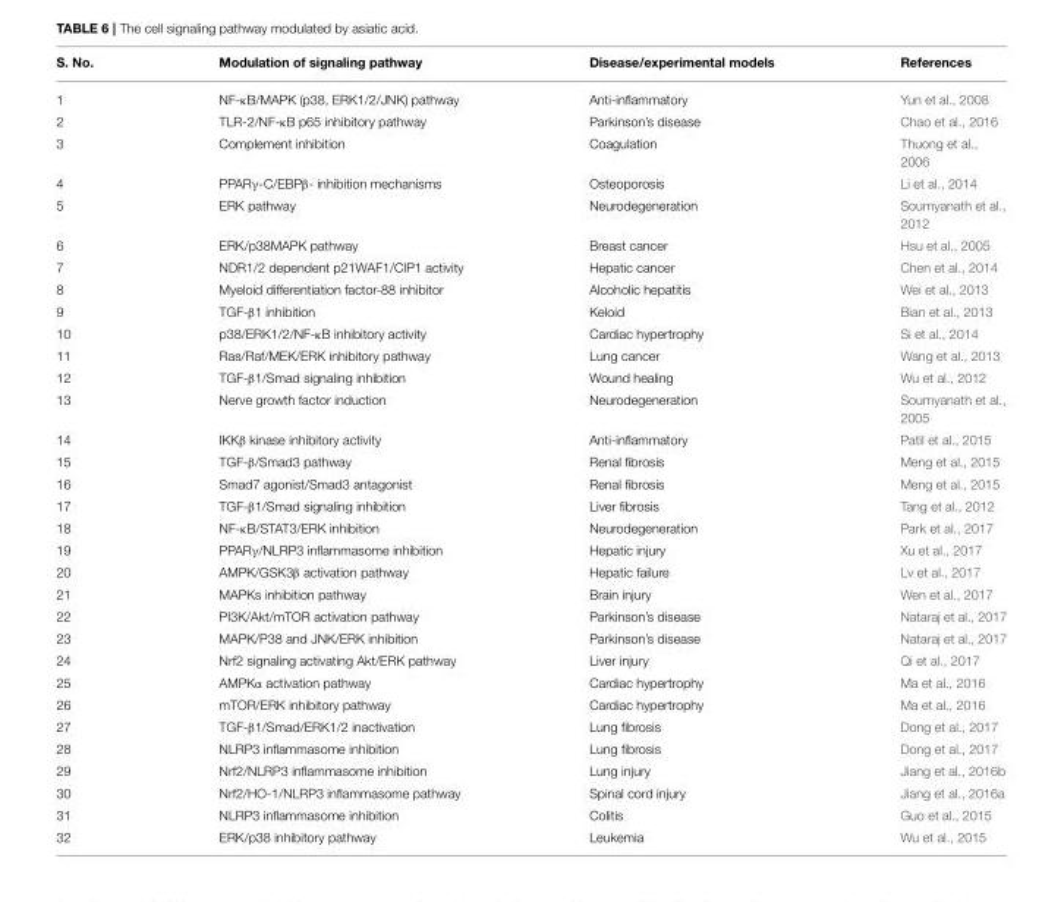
<table><thead><tr><td>S. No.</td><td>Modulation of signaling pathway</td><td>Disease/experimental models</td><td>References</td></tr></thead><tbody><tr><td>1</td><td>NF-κB/MAPK (p38, ERK1/2/JNK) pathway</td><td>Anti-inflammatory</td><td>Yun et al., 2008</td></tr><tr><td>2</td><td>TLR-2/NF-κB p65 inhibitory pathway</td><td>Parkinson’s disease</td><td>Chao et al., 2016</td></tr><tr><td>3</td><td>Complement inhibition</td><td>Coagulation</td><td>Thuong et al., 2006</td></tr><tr><td>4</td><td>PPARγ-C/EBPβ- inhibition mechanisms</td><td>Osteoporosis</td><td>Li et al., 2014</td></tr><tr><td>5</td><td>ERK pathway</td><td>Neurodegeneration</td><td>Soumyanath et al., 2012</td></tr><tr><td>6</td><td>ERK/p38MAPK pathway</td><td>Breast cancer</td><td>Hsu et al., 2005</td></tr><tr><td>7</td><td>NDR1/2 dependent p21WAF1/CIP1 activity</td><td>Hepatic cancer</td><td>Chen et al., 2014</td></tr><tr><td>8</td><td>Myeloid differentiation factor-88 inhibitor</td><td>Alcoholic hepatitis</td><td>Wei et al., 2013</td></tr><tr><td>9</td><td>TGF-β1 inhibition</td><td>Keloid</td><td>Bian et al., 2013</td></tr><tr><td>10</td><td>p38/ERK1/2/NF-κB inhibitory activity</td><td>Cardiac hypertrophy</td><td>Si et al., 2014</td></tr><tr><td>11</td><td>Ras/Raf/MEK/ERK inhibitory pathway</td><td>Lung cancer</td><td>Wang et al., 2013</td></tr><tr><td>12</td><td>TGF-β1/Smad signaling inhibition</td><td>Wound healing</td><td>Wu et al., 2012</td></tr><tr><td>13</td><td>Nerve growth factor induction</td><td>Neurodegeneration</td><td>Soumyanath et al., 2005</td></tr><tr><td>14</td><td>IKKβ kinase inhibitory activity</td><td>Anti-inflammatory</td><td>Patil et al., 2015</td></tr><tr><td>15</td><td>TGF-β/Smad3 pathway</td><td>Renal fibrosis</td><td>Meng et al., 2015</td></tr><tr><td>16</td><td>Smad7 agonist/Smad3 antagonist</td><td>Renal fibrosis</td><td>Meng et al., 2015</td></tr><tr><td>17</td><td>TGF-β1/Smad signaling inhibition</td><td>Liver fibrosis</td><td>Tang et al., 2012</td></tr><tr><td>18</td><td>NF-κB/STAT3/ERK inhibition</td><td>Neurodegeneration</td><td>Park et al., 2017</td></tr><tr><td>19</td><td>PPARγ/NLRP3 inflammasome inhibition</td><td>Hepatic injury</td><td>Xu et al., 2017</td></tr><tr><td>20</td><td>AMPK/GSK3β activation pathway</td><td>Hepatic failure</td><td>Lv et al., 2017</td></tr><tr><td>21</td><td>MAPKs inhibition pathway</td><td>Brain injury</td><td>Wen et al., 2017</td></tr><tr><td>22</td><td>PI3K/Akt/mTOR activation pathway</td><td>Parkinson’s disease</td><td>Nataraj et al., 2017</td></tr><tr><td>23</td><td>MAPK/P38 and JNK/ERK inhibition</td><td>Parkinson’s disease</td><td>Nataraj et al., 2017</td></tr><tr><td>24</td><td>Nrf2 signaling activating Akt/ERK pathway</td><td>Liver injury</td><td>Qi et al., 2017</td></tr><tr><td>25</td><td>AMPKα activation pathway</td><td>Cardiac hypertrophy</td><td>Ma et al., 2016</td></tr><tr><td>26</td><td>mTOR/ERK inhibitory pathway</td><td>Cardiac hypertrophy</td><td>Ma et al., 2016</td></tr><tr><td>27</td><td>TGF-β1/Smad/ERK1/2 inactivation</td><td>Lung fibrosis</td><td>Dong et al., 2017</td></tr><tr><td>28</td><td>NLRP3 inflammasome inhibition</td><td>Lung fibrosis</td><td>Dong et al., 2017</td></tr><tr><td>29</td><td>Nrf2/NLRP3 inflammasome inhibition</td><td>Lung injury</td><td>Jiang et al., 2016b</td></tr><tr><td>30</td><td>Nrf2/HO-1/NLRP3 inflammasome pathway</td><td>Spinal cord injury</td><td>Jiang et al., 2016a</td></tr><tr><td>31</td><td>NLRP3 inflammasome inhibition</td><td>Colitis</td><td>Guo et al., 2015</td></tr><tr><td>32</td><td>ERK/p38 inhibitory pathway</td><td>Leukemia</td><td>Wu et al., 2015</td></tr></tbody></table>